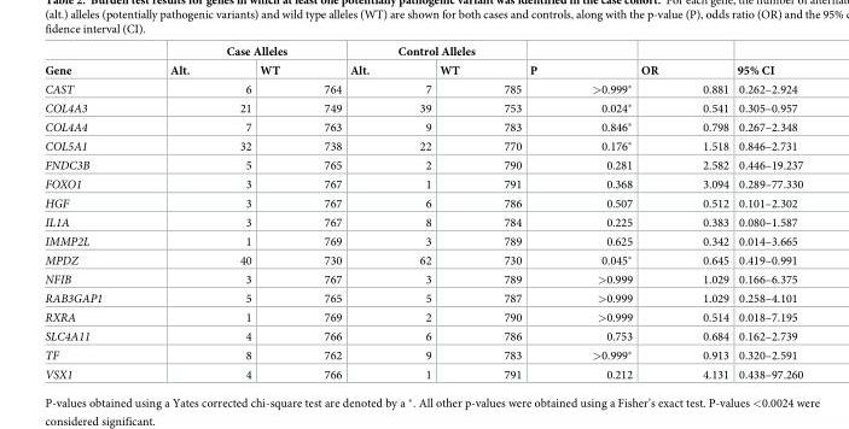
<table><thead><tr><td rowspan="2">Gene</td><td colspan="2">Case Alleles</td><td colspan="2">Control Alleles</td><td rowspan="2">P</td><td rowspan="2">OR</td><td rowspan="2">95% CI</td></tr><tr><td>Alt.</td><td>WT</td><td>Alt.</td><td>WT</td></tr></thead><tbody><tr><td>CAST</td><td>6</td><td>764</td><td>7</td><td>785</td><td>&gt;0.999*</td><td>0.881</td><td>0.262–2.924</td></tr><tr><td>COL4A3</td><td>21</td><td>749</td><td>39</td><td>753</td><td>0.024*</td><td>0.541</td><td>0.305–0.957</td></tr><tr><td>COL4A4</td><td>7</td><td>763</td><td>9</td><td>783</td><td>0.846*</td><td>0.798</td><td>0.267–2.348</td></tr><tr><td>COL5A1</td><td>32</td><td>738</td><td>22</td><td>770</td><td>0.176*</td><td>1.518</td><td>0.846–2.731</td></tr><tr><td>FNDC3B</td><td>5</td><td>765</td><td>2</td><td>790</td><td>0.281</td><td>2.582</td><td>0.446–19.237</td></tr><tr><td>FOXO1</td><td>3</td><td>767</td><td>1</td><td>791</td><td>0.368</td><td>3.094</td><td>0.289–77.330</td></tr><tr><td>HGF</td><td>3</td><td>767</td><td>6</td><td>786</td><td>0.507</td><td>0.512</td><td>0.101–2.302</td></tr><tr><td>IL1A</td><td>3</td><td>767</td><td>8</td><td>784</td><td>0.225</td><td>0.383</td><td>0.080–1.587</td></tr><tr><td>IMMP2L</td><td>1</td><td>769</td><td>3</td><td>789</td><td>0.625</td><td>0.342</td><td>0.014–3.665</td></tr><tr><td>MPDZ</td><td>40</td><td>730</td><td>62</td><td>730</td><td>0.045*</td><td>0.645</td><td>0.419–0.991</td></tr><tr><td>NFIB</td><td>3</td><td>767</td><td>3</td><td>789</td><td>&gt;0.999</td><td>1.029</td><td>0.166–6.375</td></tr><tr><td>RAB3GAP1</td><td>5</td><td>765</td><td>5</td><td>787</td><td>&gt;0.999</td><td>1.029</td><td>0.258–4.101</td></tr><tr><td>RXRA</td><td>1</td><td>769</td><td>2</td><td>790</td><td>&gt;0.999</td><td>0.514</td><td>0.018–7.195</td></tr><tr><td>SLC4A11</td><td>4</td><td>766</td><td>6</td><td>786</td><td>0.753</td><td>0.684</td><td>0.162–2.739</td></tr><tr><td>TF</td><td>8</td><td>762</td><td>9</td><td>783</td><td>&gt;0.999*</td><td>0.913</td><td>0.320–2.591</td></tr><tr><td>VSX1</td><td>4</td><td>766</td><td>1</td><td>791</td><td>0.212</td><td>4.131</td><td>0.438–97.260</td></tr></tbody></table>